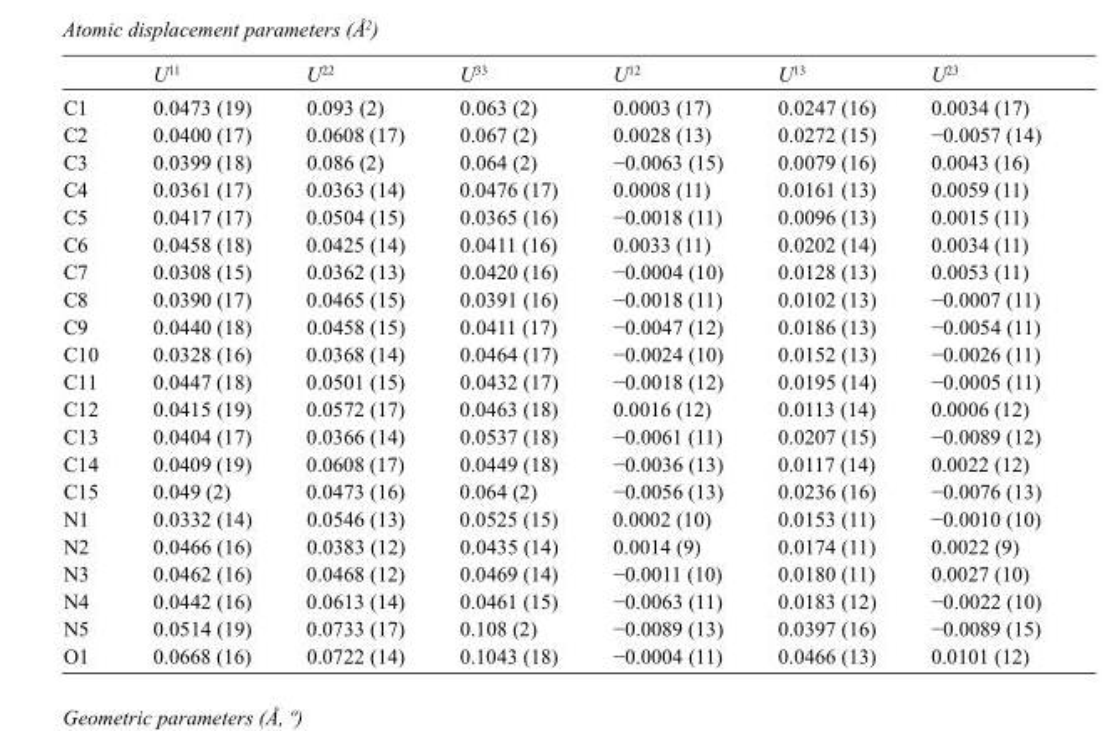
<table><thead><tr><td></td><td>U<sup>11</sup></td><td>U<sup>22</sup></td><td>U<sup>33</sup></td><td>U<sup>12</sup></td><td>U<sup>13</sup></td><td>U<sup>23</sup></td></tr></thead><tbody><tr><td>C1</td><td>0.0473 (19)</td><td>0.093 (2)</td><td>0.063 (2)</td><td>0.0003 (17)</td><td>0.0247 (16)</td><td>0.0034 (17)</td></tr><tr><td>C2</td><td>0.0400 (17)</td><td>0.0608 (17)</td><td>0.067 (2)</td><td>0.0028 (13)</td><td>0.0272 (15)</td><td>−0.0057 (14)</td></tr><tr><td>C3</td><td>0.0399 (18)</td><td>0.086 (2)</td><td>0.064 (2)</td><td>−0.0063 (15)</td><td>0.0079 (16)</td><td>0.0043 (16)</td></tr><tr><td>C4</td><td>0.0361 (17)</td><td>0.0363 (14)</td><td>0.0476 (17)</td><td>0.0008 (11)</td><td>0.0161 (13)</td><td>0.0059 (11)</td></tr><tr><td>C5</td><td>0.0417 (17)</td><td>0.0504 (15)</td><td>0.0365 (16)</td><td>−0.0018 (11)</td><td>0.0096 (13)</td><td>0.0015 (11)</td></tr><tr><td>C6</td><td>0.0458 (18)</td><td>0.0425 (14)</td><td>0.0411 (16)</td><td>0.0033 (11)</td><td>0.0202 (14)</td><td>0.0034 (11)</td></tr><tr><td>C7</td><td>0.0308 (15)</td><td>0.0362 (13)</td><td>0.0420 (16)</td><td>−0.0004 (10)</td><td>0.0128 (13)</td><td>0.0053 (11)</td></tr><tr><td>C8</td><td>0.0390 (17)</td><td>0.0465 (15)</td><td>0.0391 (16)</td><td>−0.0018 (11)</td><td>0.0102 (13)</td><td>−0.0007 (11)</td></tr><tr><td>C9</td><td>0.0440 (18)</td><td>0.0458 (15)</td><td>0.0411 (17)</td><td>−0.0047 (12)</td><td>0.0186 (13)</td><td>−0.0054 (11)</td></tr><tr><td>C10</td><td>0.0328 (16)</td><td>0.0368 (14)</td><td>0.0464 (17)</td><td>−0.0024 (10)</td><td>0.0152 (13)</td><td>−0.0026 (11)</td></tr><tr><td>C11</td><td>0.0447 (18)</td><td>0.0501 (15)</td><td>0.0432 (17)</td><td>−0.0018 (12)</td><td>0.0195 (14)</td><td>−0.0005 (11)</td></tr><tr><td>C12</td><td>0.0415 (19)</td><td>0.0572 (17)</td><td>0.0463 (18)</td><td>0.0016 (12)</td><td>0.0113 (14)</td><td>0.0006 (12)</td></tr><tr><td>C13</td><td>0.0404 (17)</td><td>0.0366 (14)</td><td>0.0537 (18)</td><td>−0.0061 (11)</td><td>0.0207 (15)</td><td>−0.0089 (12)</td></tr><tr><td>C14</td><td>0.0409 (19)</td><td>0.0608 (17)</td><td>0.0449 (18)</td><td>−0.0036 (13)</td><td>0.0117 (14)</td><td>0.0022 (12)</td></tr><tr><td>C15</td><td>0.049 (2)</td><td>0.0473 (16)</td><td>0.064 (2)</td><td>−0.0056 (13)</td><td>0.0236 (16)</td><td>−0.0076 (13)</td></tr><tr><td>N1</td><td>0.0332 (14)</td><td>0.0546 (13)</td><td>0.0525 (15)</td><td>0.0002 (10)</td><td>0.0153 (11)</td><td>−0.0010 (10)</td></tr><tr><td>N2</td><td>0.0466 (16)</td><td>0.0383 (12)</td><td>0.0435 (14)</td><td>0.0014 (9)</td><td>0.0174 (11)</td><td>0.0022 (9)</td></tr><tr><td>N3</td><td>0.0462 (16)</td><td>0.0468 (12)</td><td>0.0469 (14)</td><td>−0.0011 (10)</td><td>0.0180 (11)</td><td>0.0027 (10)</td></tr><tr><td>N4</td><td>0.0442 (16)</td><td>0.0613 (14)</td><td>0.0461 (15)</td><td>−0.0063 (11)</td><td>0.0183 (12)</td><td>−0.0022 (10)</td></tr><tr><td>N5</td><td>0.0514 (19)</td><td>0.0733 (17)</td><td>0.108 (2)</td><td>−0.0089 (13)</td><td>0.0397 (16)</td><td>−0.0089 (15)</td></tr><tr><td>O1</td><td>0.0668 (16)</td><td>0.0722 (14)</td><td>0.1043 (18)</td><td>−0.0004 (11)</td><td>0.0466 (13)</td><td>0.0101 (12)</td></tr></tbody></table>